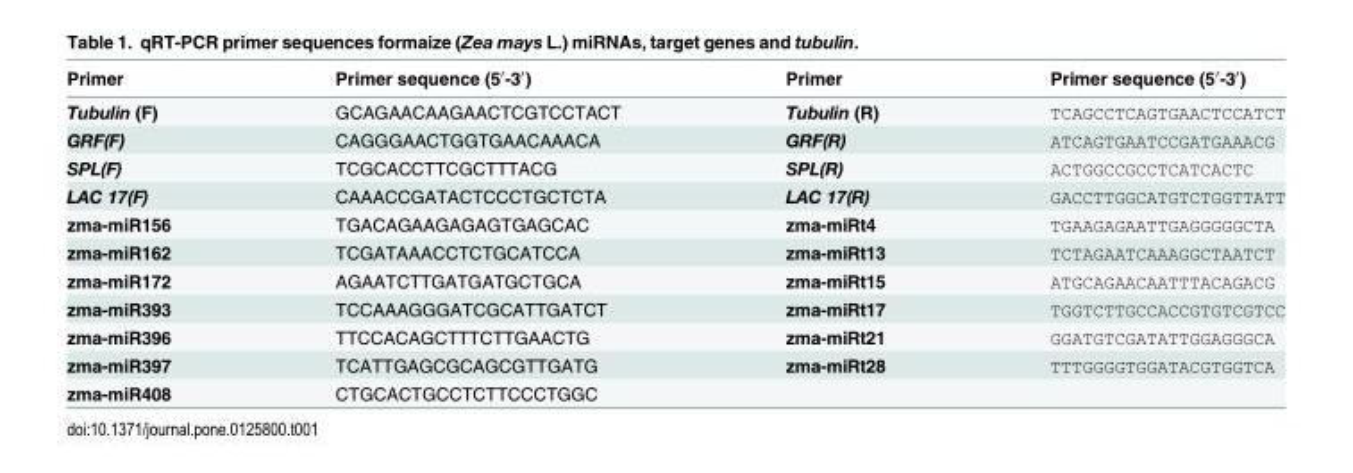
<table><thead><tr><td>Primer</td><td>Primer sequence (5′-3′)</td><td>Primer</td><td>Primer sequence (5′-3′)</td></tr></thead><tbody><tr><td>Tubulin (F)</td><td>GCAGAACAAGAACTCGTCCTACT</td><td>Tubulin (R)</td><td>TCAGCCTCAGTGAACTCCATCT</td></tr><tr><td>GRF(F)</td><td>CAGGGAACTGGTGAACAAACA</td><td>GRF(R)</td><td>ATCAGTGAATCCGATGAAACG</td></tr><tr><td>SPL(F)</td><td>TCGCACCTTCGCTTTACG</td><td>SPL(R)</td><td>ACTGGCCGCCTCATCACTC</td></tr><tr><td>LAC 17(F)</td><td>CAAACCGATACTCCCTGCTCTA</td><td>LAC 17(R)</td><td>GACCTTGGCATGTCTGGTTATT</td></tr><tr><td>zma-miR156</td><td>TGACAGAAGAGAGTGAGCAC</td><td>zma-miRt4</td><td>TGAAGAGAATTGAGGGGGCTA</td></tr><tr><td>zma-miR162</td><td>TCGATAAACCTCTGCATCCA</td><td>zma-miRt13</td><td>TCTAGAATCAAAGGCTAATCT</td></tr><tr><td>zma-miR172</td><td>AGAATCTTGATGATGCTGCA</td><td>zma-miRt15</td><td>ATGCAGAACAATTTACAGACG</td></tr><tr><td>zma-miR393</td><td>TCCAAAGGGATCGCATTGATCT</td><td>zma-miRt17</td><td>TGGTCTTGCCACCGTGTCGTCC</td></tr><tr><td>zma-miR396</td><td>TTCCACAGCTTTCTTGAACTG</td><td>zma-miRt21</td><td>GGATGTCGATATTGGAGGGCA</td></tr><tr><td>zma-miR397</td><td>TCATTGAGCGCAGCGTTGATG</td><td>zma-miRt28</td><td>TTTGGGGTGGATACGTGGTCA</td></tr><tr><td>zma-miR408</td><td>CTGCACTGCCTCTTCCCTGGC</td><td></td><td></td></tr></tbody></table>